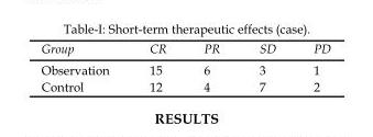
<table><thead><tr><td>Group</td><td>CR</td><td>PR</td><td>SD</td><td>PD</td></tr></thead><tbody><tr><td>Observation</td><td>15</td><td>6</td><td>3</td><td>1</td></tr><tr><td>Control</td><td>12</td><td>4</td><td>7</td><td>2</td></tr></tbody></table>